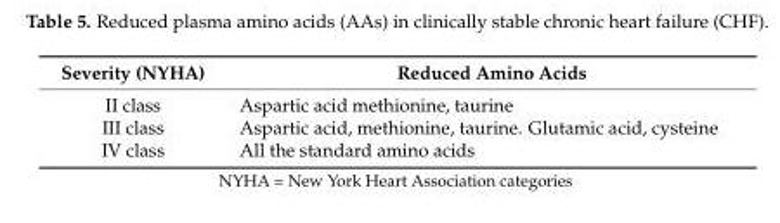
<table><thead><tr><td>Severity (NYHA)</td><td>Reduced Amino Acids</td></tr></thead><tbody><tr><td>II class</td><td>Aspartic acid methionine, taurine</td></tr><tr><td>III class</td><td>Aspartic acid, methionine, taurine. Glutamic acid, cysteine</td></tr><tr><td>IV class</td><td>All the standard amino acids</td></tr></tbody></table>